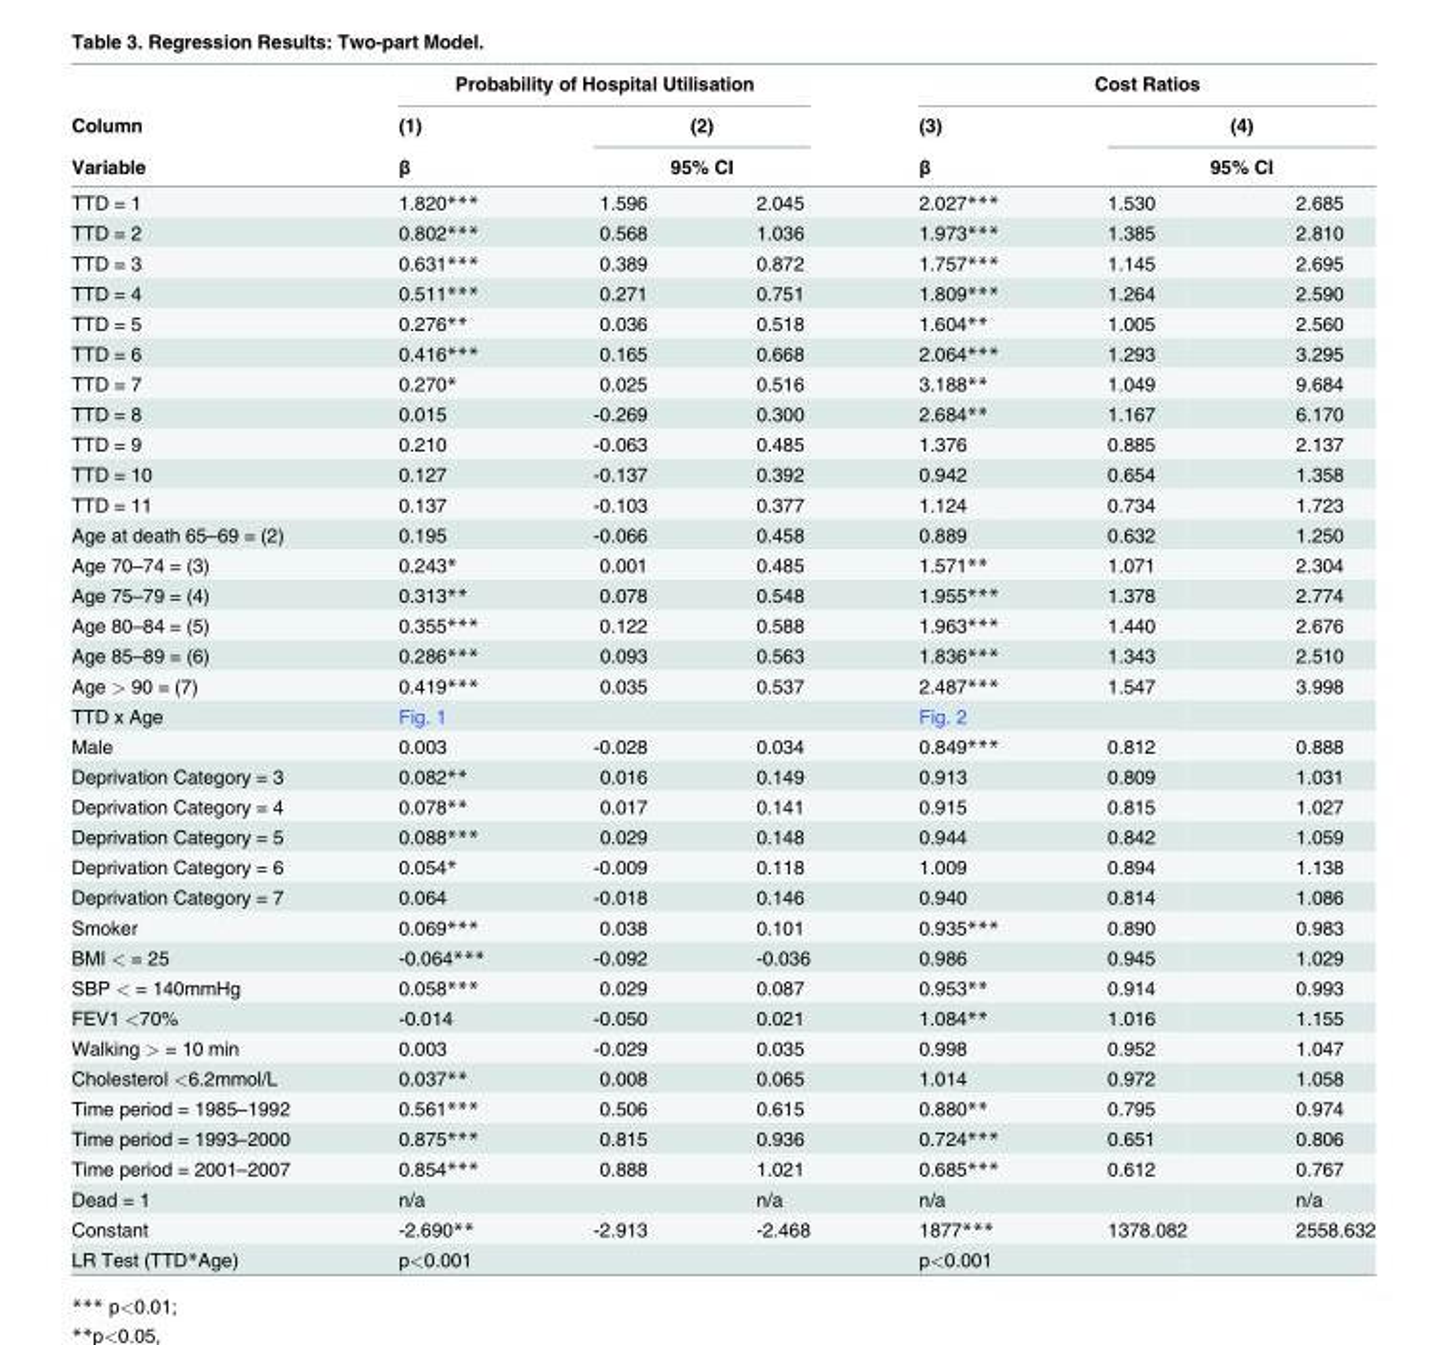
<table><thead><tr><td rowspan="4">Column Variable TTD = 1</td><td colspan="3">Probability of Hospital Utilisation</td><td colspan="3">Cost Ratios</td></tr><tr><td rowspan="3">(1) β 1.820***</td><td rowspan="2" colspan="2">(2) 95% CI</td><td rowspan="3">(3) β 2.027***</td><td rowspan="2" colspan="2">(4) 95% CI</td></tr><tr></tr><tr><td>1.596</td><td>2.045</td><td>1.530</td><td>2.685</td></tr></thead><tbody><tr><td>TTD = 2</td><td>0.802***</td><td>0.568</td><td>1.036</td><td>1.973***</td><td>1.385</td><td>2.810</td></tr><tr><td>TTD = 3</td><td>0.631***</td><td>0.389</td><td>0.872</td><td>1.757***</td><td>1.145</td><td>2.695</td></tr><tr><td>TTD = 4</td><td>0.511***</td><td>0.271</td><td>0.751</td><td>1.809***</td><td>1.264</td><td>2.590</td></tr><tr><td>TTD = 5</td><td>0.276**</td><td>0.036</td><td>0.518</td><td>1.604**</td><td>1.005</td><td>2.560</td></tr><tr><td>TTD = 6</td><td>0.416***</td><td>0.165</td><td>0.668</td><td>2.064***</td><td>1.293</td><td>3.295</td></tr><tr><td>TTD = 7</td><td>0.270*</td><td>0.025</td><td>0.516</td><td>3.188**</td><td>1.049</td><td>9.684</td></tr><tr><td>TTD = 8</td><td>0.015</td><td>-0.269</td><td>0.300</td><td>2.684**</td><td>1.167</td><td>6.170</td></tr><tr><td>TTD = 9</td><td>0.210</td><td>-0.063</td><td>0.485</td><td>1.376</td><td>0.885</td><td>2.137</td></tr><tr><td>TTD = 10</td><td>0.127</td><td>-0.137</td><td>0.392</td><td>0.942</td><td>0.654</td><td>1.358</td></tr><tr><td>TTD = 11</td><td>0.137</td><td>-0.103</td><td>0.377</td><td>1.124</td><td>0.734</td><td>1.723</td></tr><tr><td>Age at death 65–69 = (2)</td><td>0.195</td><td>-0.066</td><td>0.458</td><td>0.889</td><td>0.632</td><td>1.250</td></tr><tr><td>Age 70–74 = (3)</td><td>0.243*</td><td>0.001</td><td>0.485</td><td>1.571**</td><td>1.071</td><td>2.304</td></tr><tr><td>Age 75–79 = (4)</td><td>0.313**</td><td>0.078</td><td>0.548</td><td>1.955***</td><td>1.378</td><td>2.774</td></tr><tr><td>Age 80–84 = (5)</td><td>0.355***</td><td>0.122</td><td>0.588</td><td>1.963***</td><td>1.440</td><td>2.676</td></tr><tr><td>Age 85–89 = (6)</td><td>0.286***</td><td>0.093</td><td>0.563</td><td>1.836***</td><td>1.343</td><td>2.510</td></tr><tr><td>Age &gt; 90 = (7)</td><td>0.419***</td><td>0.035</td><td>0.537</td><td>2.487***</td><td>1.547</td><td>3.998</td></tr><tr><td>TTD x Age</td><td>Fig. 1</td><td></td><td></td><td>Fig. 2</td><td></td><td></td></tr><tr><td>Male</td><td>0.003</td><td>-0.028</td><td>0.034</td><td>0.849***</td><td>0.812</td><td>0.888</td></tr><tr><td>Deprivation Category = 3</td><td>0.082**</td><td>0.016</td><td>0.149</td><td>0.913</td><td>0.809</td><td>1.031</td></tr><tr><td>Deprivation Category = 4</td><td>0.078**</td><td>0.017</td><td>0.141</td><td>0.915</td><td>0.815</td><td>1.027</td></tr><tr><td>Deprivation Category = 5</td><td>0.088***</td><td>0.029</td><td>0.148</td><td>0.944</td><td>0.842</td><td>1.059</td></tr><tr><td>Deprivation Category = 6</td><td>0.054*</td><td>-0.009</td><td>0.118</td><td>1.009</td><td>0.894</td><td>1.138</td></tr><tr><td>Deprivation Category = 7</td><td>0.064</td><td>-0.018</td><td>0.146</td><td>0.940</td><td>0.814</td><td>1.086</td></tr><tr><td>Smoker</td><td>0.069***</td><td>0.038</td><td>0.101</td><td>0.935***</td><td>0.890</td><td>0.983</td></tr><tr><td>BMI &lt; = 25</td><td>-0.064***</td><td>-0.092</td><td>-0.036</td><td>0.986</td><td>0.945</td><td>1.029</td></tr><tr><td>SBP &lt; = 140mmHg</td><td>0.058***</td><td>0.029</td><td>0.087</td><td>0.953**</td><td>0.914</td><td>0.993</td></tr><tr><td>FEV1 &lt;70%</td><td>-0.014</td><td>-0.050</td><td>0.021</td><td>1.084**</td><td>1.016</td><td>1.155</td></tr><tr><td>Walking &gt; = 10 min</td><td>0.003</td><td>-0.029</td><td>0.035</td><td>0.998</td><td>0.952</td><td>1.047</td></tr><tr><td>Cholesterol &lt;6.2mmol/L</td><td>0.037**</td><td>0.008</td><td>0.065</td><td>1.014</td><td>0.972</td><td>1.058</td></tr><tr><td>Time period = 1985–1992</td><td>0.561***</td><td>0.506</td><td>0.615</td><td>0.880**</td><td>0.795</td><td>0.974</td></tr><tr><td>Time period = 1993–2000</td><td>0.875***</td><td>0.815</td><td>0.936</td><td>0.724***</td><td>0.651</td><td>0.806</td></tr><tr><td>Time period = 2001–2007</td><td>0.854***</td><td>0.888</td><td>1.021</td><td>0.685***</td><td>0.612</td><td>0.767</td></tr><tr><td>Dead = 1</td><td>n/a</td><td></td><td>n/a</td><td>n/a</td><td></td><td>n/a</td></tr><tr><td>Constant</td><td>-2.690**</td><td>-2.913</td><td>-2.468</td><td>1877***</td><td>1378.082</td><td>2558.632</td></tr><tr><td>LR Test (TTD*Age)</td><td>p&lt;0.001</td><td></td><td></td><td>p&lt;0.001</td><td></td><td></td></tr></tbody></table>